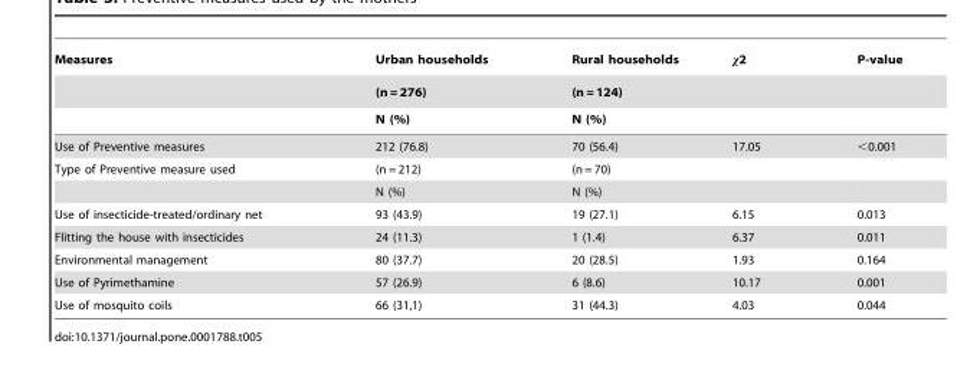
<table><thead><tr><td rowspan="3">Measures</td><td rowspan="3">Urban households (n = 276) N (%)</td><td rowspan="3">Rural households (n = 124) N (%)</td><td rowspan="3">χ2</td><td rowspan="3">P-value</td></tr><tr></tr><tr></tr></thead><tbody><tr><td>Use of Preventive measures</td><td>212 (76.8)</td><td>70 (56.4)</td><td>17.05</td><td>&lt;0.001</td></tr><tr><td rowspan="2">Type of Preventive measure used</td><td>(n = 212)</td><td>(n = 70)</td><td></td><td></td></tr><tr><td>N (%)</td><td>N (%)</td><td></td><td></td></tr><tr><td>Use of insecticide-treated/ordinary net</td><td>93 (43.9)</td><td>19 (27.1)</td><td>6.15</td><td>0.013</td></tr><tr><td>Flitting the house with insecticides</td><td>24 (11.3)</td><td>1 (1.4)</td><td>6.37</td><td>0.011</td></tr><tr><td>Environmental management</td><td>80 (37.7)</td><td>20 (28.5)</td><td>1.93</td><td>0.164</td></tr><tr><td>Use of Pyrimethamine</td><td>57 (26.9)</td><td>6 (8.6)</td><td>10.17</td><td>0.001</td></tr><tr><td>Use of mosquito coils</td><td>66 (31,1)</td><td>31 (44.3)</td><td>4.03</td><td>0.044</td></tr></tbody></table>